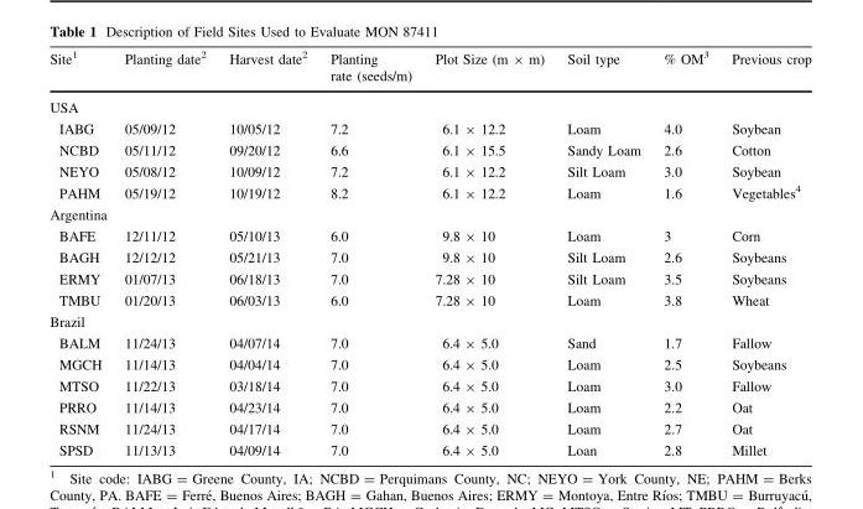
<table><thead><tr><td>Site<sup>1</sup></td><td>Planting date<sup>2</sup></td><td>Harvest date<sup>2</sup></td><td>Planting rate (seeds/m)</td><td>Plot Size (m × m)</td><td>Soil type</td><td>% OM<sup>3</sup></td><td>Previous crop</td></tr></thead><tbody><tr><td colspan="8">USA</td></tr><tr><td>IABG</td><td>05/09/12</td><td>10/05/12</td><td>7.2</td><td>6.1 × 12.2</td><td>Loam</td><td>4.0</td><td>Soybean</td></tr><tr><td>NCBD</td><td>05/11/12</td><td>09/20/12</td><td>6.6</td><td>6.1 × 15.5</td><td>Sandy Loam</td><td>2.6</td><td>Cotton</td></tr><tr><td>NEYO</td><td>05/08/12</td><td>10/09/12</td><td>7.2</td><td>6.1 × 12.2</td><td>Silt Loam</td><td>3.0</td><td>Soybean</td></tr><tr><td>PAHM</td><td>05/19/12</td><td>10/19/12</td><td>8.2</td><td>6.1 × 12.2</td><td>Loam</td><td>1.6</td><td>Vegetables<sup>4</sup></td></tr><tr><td colspan="8">Argentina</td></tr><tr><td>BAFE</td><td>12/11/12</td><td>05/10/13</td><td>6.0</td><td>9.8 × 10</td><td>Loam</td><td>3</td><td>Corn</td></tr><tr><td>BAGH</td><td>12/12/12</td><td>05/21/13</td><td>7.0</td><td>9.8 × 10</td><td>Silt Loam</td><td>2.6</td><td>Soybeans</td></tr><tr><td>ERMY</td><td>01/07/13</td><td>06/18/13</td><td>7.0</td><td>7.28 × 10</td><td>Silt Loam</td><td>3.5</td><td>Soybeans</td></tr><tr><td>TMBU</td><td>01/20/13</td><td>06/03/13</td><td>6.0</td><td>7.28 × 10</td><td>Loam</td><td>3.8</td><td>Wheat</td></tr><tr><td colspan="8">Brazil</td></tr><tr><td>BALM</td><td>11/24/13</td><td>04/07/14</td><td>7.0</td><td>6.4 × 5.0</td><td>Sand</td><td>1.7</td><td>Fallow</td></tr><tr><td>MGCH</td><td>11/14/13</td><td>04/04/14</td><td>7.0</td><td>6.4 × 5.0</td><td>Loam</td><td>2.5</td><td>Soybeans</td></tr><tr><td>MTSO</td><td>11/22/13</td><td>03/18/14</td><td>7.0</td><td>6.4 × 5.0</td><td>Loam</td><td>3.0</td><td>Fallow</td></tr><tr><td>PRRO</td><td>11/14/13</td><td>04/23/14</td><td>7.0</td><td>6.4 × 5.0</td><td>Loam</td><td>2.2</td><td>Oat</td></tr><tr><td>RSNM</td><td>11/24/13</td><td>04/17/14</td><td>7.0</td><td>6.4 × 5.0</td><td>Loam</td><td>2.7</td><td>Oat</td></tr><tr><td>SPSD</td><td>11/13/13</td><td>04/09/14</td><td>7.0</td><td>6.4 × 5.0</td><td>Loan</td><td>2.8</td><td>Millet</td></tr></tbody></table>